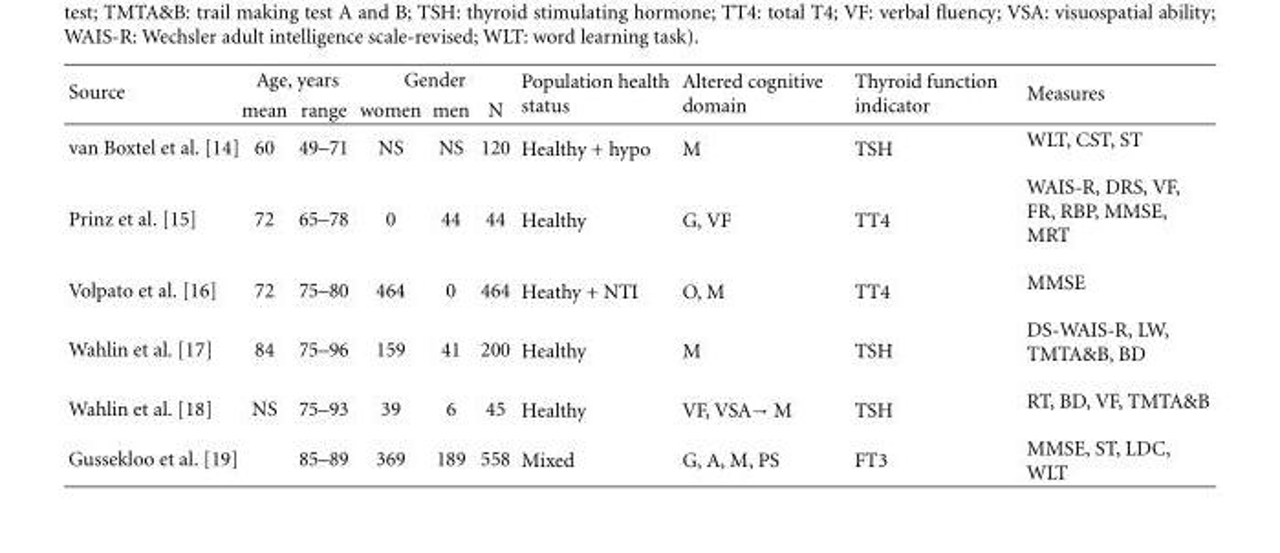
<table><thead><tr><td rowspan="2">Source</td><td colspan="2">Age, years</td><td colspan="3">Gender</td><td rowspan="2">Population health status</td><td rowspan="2">Altered cognitive domain</td><td rowspan="2">Thyroid function indicator</td><td rowspan="2">Measures</td></tr><tr><td>mean</td><td>range</td><td>women</td><td>men</td><td>N</td></tr></thead><tbody><tr><td>van Boxtel et al. [14]</td><td>60</td><td>49–71</td><td>NS</td><td>NS</td><td>120</td><td>Healthy + hypo</td><td>M</td><td>TSH</td><td>WLT, CST, ST</td></tr><tr><td>Prinz et al. [15]</td><td>72</td><td>65–78</td><td>0</td><td>44</td><td>44</td><td>Healthy</td><td>G, VF</td><td>TT4</td><td>WAIS-R, DRS, VF, FR, RBP, MMSE, MRT</td></tr><tr><td>Volpato et al. [16]</td><td>72</td><td>75–80</td><td>464</td><td>0</td><td>464</td><td>Heathy + NTI</td><td>O, M</td><td>TT4</td><td>MMSE</td></tr><tr><td>Wahlin et al. [17]</td><td>84</td><td>75–96</td><td>159</td><td>41</td><td>200</td><td>Healthy</td><td>M</td><td>TSH</td><td>DS-WAIS-R, LW, TMTA&amp;B, BD</td></tr><tr><td>Wahlin et al. [18]</td><td>NS</td><td>75–93</td><td>39</td><td>6</td><td>45</td><td>Healthy</td><td>VF, VSA→ M</td><td>TSH</td><td>RT, BD, VF, TMTA&amp;B</td></tr><tr><td>Gussekloo et al. [19]</td><td></td><td>85–89</td><td>369</td><td>189</td><td>558</td><td>Mixed</td><td>G, A, M, PS</td><td>FT3</td><td>MMSE, ST, LDC, WLT</td></tr></tbody></table>